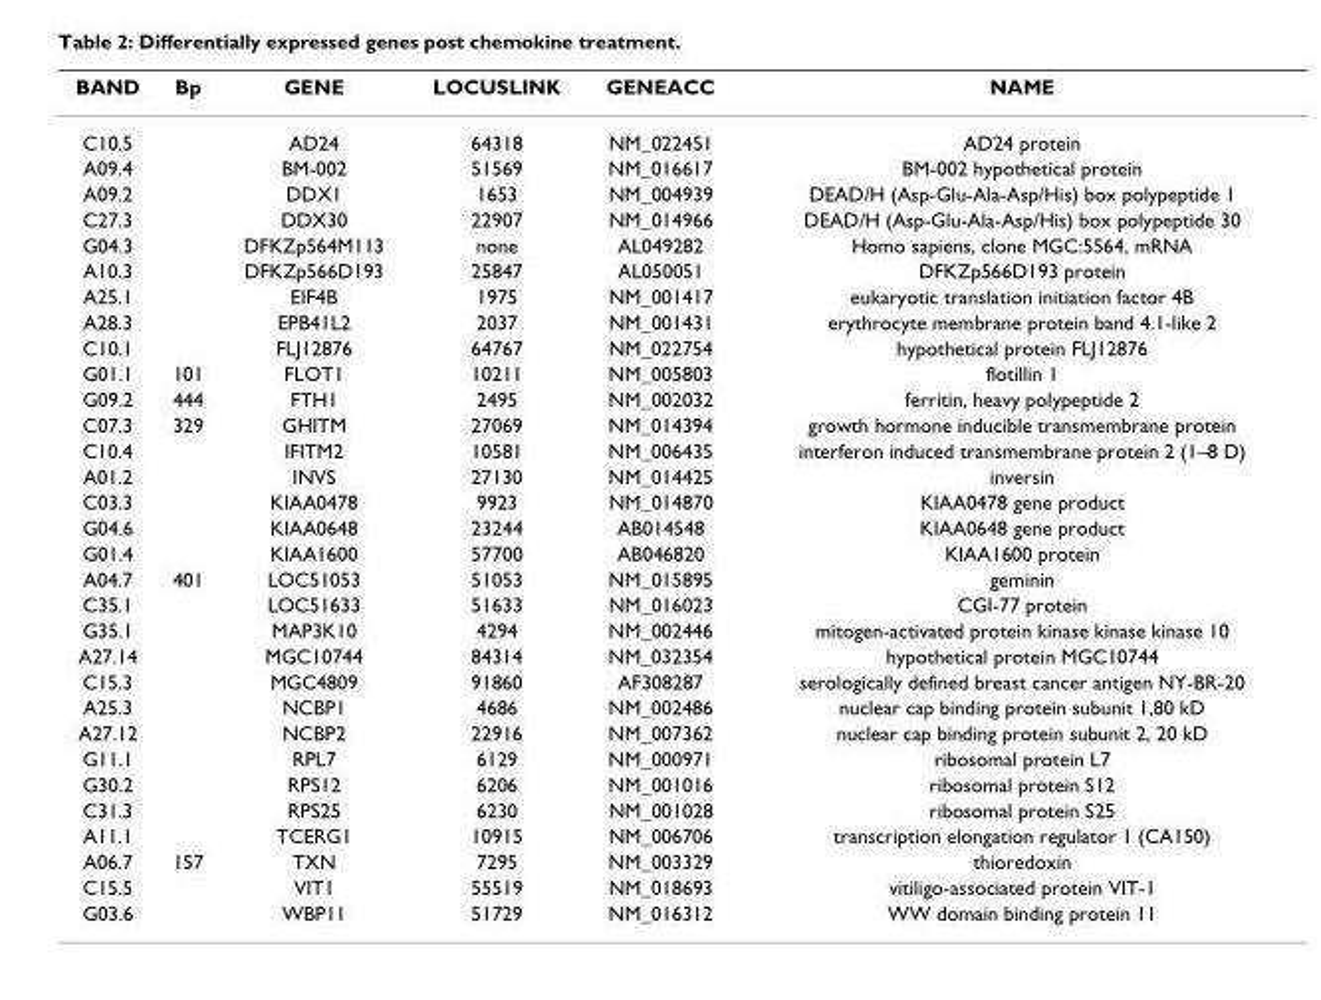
<table><thead><tr><td>BAND</td><td>Bp</td><td>GENE</td><td>LOCUSLINK</td><td>GENEACC</td><td>NAME</td></tr></thead><tbody><tr><td>C10.5</td><td></td><td>AD24</td><td>64318</td><td>NM_022451</td><td>AD24 protein</td></tr><tr><td>A09.4</td><td></td><td>BM-002</td><td>51569</td><td>NM_016617</td><td>BM-002 hypothetical protein</td></tr><tr><td>A09.2</td><td></td><td>DDX1</td><td>1653</td><td>NM_004939</td><td>DEAD/H (Asp-Glu-Ala-Asp/His) box polypeptide 1</td></tr><tr><td>C27.3</td><td></td><td>DDX30</td><td>22907</td><td>NM_014966</td><td>DEAD/H (Asp-Glu-Ala-Asp/His) box polypeptide 30</td></tr><tr><td>G04.3</td><td></td><td>DFKZp564M113</td><td>none</td><td>AL049282</td><td>Homo sapiens, clone MGC:5564, mRNA</td></tr><tr><td>A10.3</td><td></td><td>DFKZp566D193</td><td>25847</td><td>AL050051</td><td>DFKZp566D193 protein</td></tr><tr><td>A25.1</td><td></td><td>EIF4B</td><td>1975</td><td>NM_001417</td><td>eukaryotic translation initiation factor 4B</td></tr><tr><td>A28.3</td><td></td><td>EPB41L2</td><td>2037</td><td>NM_001431</td><td>erythrocyte membrane protein band 4.1-like 2</td></tr><tr><td>C10.1</td><td></td><td>FLJ12876</td><td>64767</td><td>NM_022754</td><td>hypothetical protein FLJ12876</td></tr><tr><td>G01.1</td><td>101</td><td>FLOT1</td><td>10211</td><td>NM_005803</td><td>flotillin 1</td></tr><tr><td>G09.2</td><td>444</td><td>FTH1</td><td>2495</td><td>NM_002032</td><td>ferritin, heavy polypeptide 2</td></tr><tr><td>C07.3</td><td>329</td><td>GHITM</td><td>27069</td><td>NM_014394</td><td>growth hormone inducible transmembrane protein</td></tr><tr><td>C10.4</td><td></td><td>IFITM2</td><td>10581</td><td>NM_006435</td><td>interferon induced transmembrane protein 2 (1–8 D)</td></tr><tr><td>A01.2</td><td></td><td>INVS</td><td>27130</td><td>NM_014425</td><td>inversin</td></tr><tr><td>C03.3</td><td></td><td>KIAA0478</td><td>9923</td><td>NM_014870</td><td>KIAA0478 gene product</td></tr><tr><td>G04.6</td><td></td><td>KIAA0648</td><td>23244</td><td>AB014548</td><td>KIAA0648 gene product</td></tr><tr><td>G01.4</td><td></td><td>KIAA1600</td><td>57700</td><td>AB046820</td><td>KIAA1600 protein</td></tr><tr><td>A04.7</td><td>401</td><td>LOC51053</td><td>51053</td><td>NM_015895</td><td>geminin</td></tr><tr><td>C35.1</td><td></td><td>LOC51633</td><td>51633</td><td>NM_016023</td><td>CGI-77 protein</td></tr><tr><td>G35.1</td><td></td><td>MAP3K10</td><td>4294</td><td>NM_002446</td><td>mitogen-activated protein kinase kinase kinase 10</td></tr><tr><td>A27.14</td><td></td><td>MGC10744</td><td>84314</td><td>NM_032354</td><td>hypothetical protein MGC10744</td></tr><tr><td>C15.3</td><td></td><td>MGC4809</td><td>91860</td><td>AF308287</td><td>serologically defined breast cancer antigen NY-BR-20</td></tr><tr><td>A25.3</td><td></td><td>NCBP1</td><td>4686</td><td>NM_002486</td><td>nuclear cap binding protein subunit 1,80 kD</td></tr><tr><td>A27.12</td><td></td><td>NCBP2</td><td>22916</td><td>NM_007362</td><td>nuclear cap binding protein subunit 2, 20 kD</td></tr><tr><td>G11.1</td><td></td><td>RPL7</td><td>6129</td><td>NM_000971</td><td>ribosomal protein L7</td></tr><tr><td>G30.2</td><td></td><td>RPS12</td><td>6206</td><td>NM_001016</td><td>ribosomal protein S12</td></tr><tr><td>C31.3</td><td></td><td>RPS25</td><td>6230</td><td>NM_001028</td><td>ribosomal protein S25</td></tr><tr><td>A11.1</td><td></td><td>TCERG1</td><td>10915</td><td>NM_006706</td><td>transcription elongation regulator 1 (CA150)</td></tr><tr><td>A06.7</td><td>157</td><td>TXN</td><td>7295</td><td>NM_003329</td><td>thioredoxin</td></tr><tr><td>C15.5</td><td></td><td>VIT1</td><td>55519</td><td>NM_018693</td><td>vitiligo-associated protein VIT-1</td></tr><tr><td>G03.6</td><td></td><td>WBP11</td><td>51729</td><td>NM_016312</td><td>WW domain binding protein 11</td></tr></tbody></table>